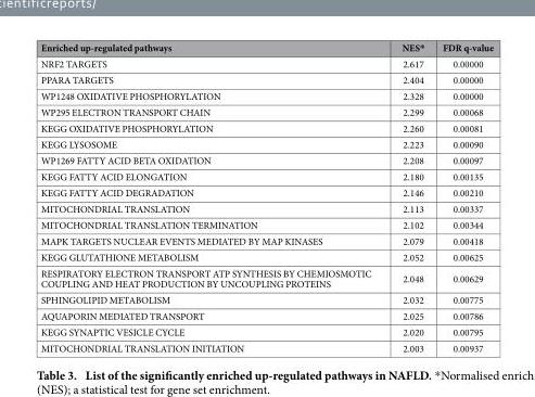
<table><thead><tr><td>Enriched up-regulated pathways</td><td>NES*</td><td>FDR q-value</td></tr></thead><tbody><tr><td>NRF2 TARGETS</td><td>2.617</td><td>0.00000</td></tr><tr><td>PPARA TARGETS</td><td>2.404</td><td>0.00000</td></tr><tr><td>WP1248 OXIDATIVE PHOSPHORYLATION</td><td>2.328</td><td>0.00000</td></tr><tr><td>WP295 ELECTRON TRANSPORT CHAIN</td><td>2.299</td><td>0.00068</td></tr><tr><td>KEGG OXIDATIVE PHOSPHORYLATION</td><td>2.260</td><td>0.00081</td></tr><tr><td>KEGG LYSOSOME</td><td>2.223</td><td>0.00090</td></tr><tr><td>WP1269 FATTY ACID BETA OXIDATION</td><td>2.208</td><td>0.00097</td></tr><tr><td>KEGG FATTY ACID ELONGATION</td><td>2.180</td><td>0.00135</td></tr><tr><td>KEGG FATTY ACID DEGRADATION</td><td>2.146</td><td>0.00210</td></tr><tr><td>MITOCHONDRIAL TRANSLATION</td><td>2.113</td><td>0.00337</td></tr><tr><td>MITOCHONDRIAL TRANSLATION TERMINATION</td><td>2.102</td><td>0.00344</td></tr><tr><td>MAPK TARGETS NUCLEAR EVENTS MEDIATED BY MAP KINASES</td><td>2.079</td><td>0.00418</td></tr><tr><td>KEGG GLUTATHIONE METABOLISM</td><td>2.052</td><td>0.00625</td></tr><tr><td>RESPIRATORY ELECTRON TRANSPORT ATP SYNTHESIS BY CHEMIOSMOTIC COUPLING AND HEAT PRODUCTION BY UNCOUPLING PROTEINS</td><td>2.048</td><td>0.00629</td></tr><tr><td>SPHINGOLIPID METABOLISM</td><td>2.032</td><td>0.00775</td></tr><tr><td>AQUAPORIN MEDIATED TRANSPORT</td><td>2.025</td><td>0.00786</td></tr><tr><td>KEGG SYNAPTIC VESICLE CYCLE</td><td>2.020</td><td>0.00795</td></tr><tr><td>MITOCHONDRIAL TRANSLATION INITIATION</td><td>2.003</td><td>0.00937</td></tr></tbody></table>